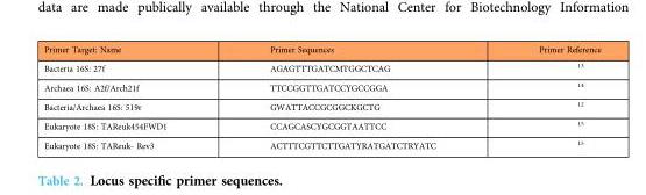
<table><thead><tr><td>Primer Target: Name</td><td>Primer Sequences</td><td>Primer Reference</td></tr></thead><tbody><tr><td>Bacteria 16S: 27f</td><td>AGAGTTTGATCMTGGCTCAG</td><td><sup>13</sup></td></tr><tr><td>Archaea 16S: A2f/Arch21f</td><td>TTCCGGTTGATCCYGCCGGA</td><td><sup>14</sup></td></tr><tr><td>Bacteria/Archaea 16S: 519r</td><td>GWATTACCGCGGCKGCTG</td><td><sup>12</sup></td></tr><tr><td>Eukaryote 18S: TAReuk454FWD1</td><td>CCAGCASCYGCGGTAATTCC</td><td><sup>15</sup></td></tr><tr><td>Eukaryote 18S: TAReuk- Rev3</td><td>ACTTTCGTTCTTGATYRATGATCTRYATC</td><td><sup>15</sup></td></tr></tbody></table>